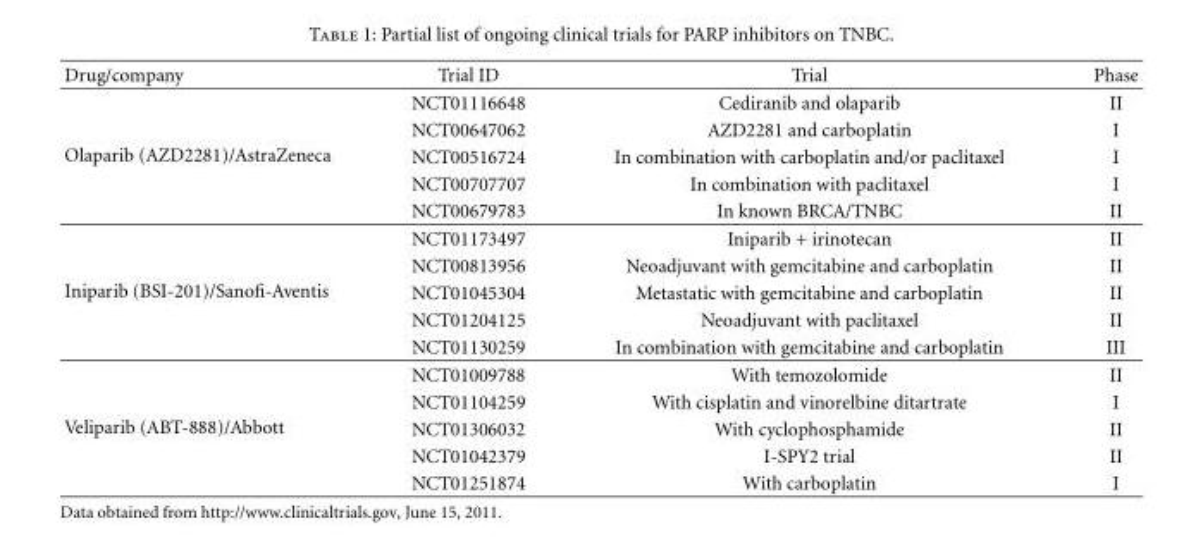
<table><thead><tr><td>Drug/company</td><td>Trial ID</td><td>Trial</td><td>Phase</td></tr></thead><tbody><tr><td rowspan="5">Olaparib (AZD2281)/AstraZeneca</td><td>NCT01116648</td><td>Cediranib and olaparib</td><td>II</td></tr><tr><td>NCT00647062</td><td>AZD2281 and carboplatin</td><td>I</td></tr><tr><td>NCT00516724</td><td>In combination with carboplatin and/or paclitaxel</td><td>I</td></tr><tr><td>NCT00707707</td><td>In combination with paclitaxel</td><td>I</td></tr><tr><td>NCT00679783</td><td>In known BRCA/TNBC</td><td>II</td></tr><tr><td rowspan="5">Iniparib (BSI-201)/Sanofi-Aventis</td><td>NCT01173497</td><td>Iniparib + irinotecan</td><td>II</td></tr><tr><td>NCT00813956</td><td>Neoadjuvant with gemcitabine and carboplatin</td><td>II</td></tr><tr><td>NCT01045304</td><td>Metastatic with gemcitabine and carboplatin</td><td>II</td></tr><tr><td>NCT01204125</td><td>Neoadjuvant with paclitaxel</td><td>II</td></tr><tr><td>NCT01130259</td><td>In combination with gemcitabine and carboplatin</td><td>III</td></tr><tr><td rowspan="5">Veliparib (ABT-888)/Abbott</td><td>NCT01009788</td><td>With temozolomide</td><td>II</td></tr><tr><td>NCT01104259</td><td>With cisplatin and vinorelbine ditartrate</td><td>I</td></tr><tr><td>NCT01306032</td><td>With cyclophosphamide</td><td>II</td></tr><tr><td>NCT01042379</td><td>I-SPY2 trial</td><td>II</td></tr><tr><td>NCT01251874</td><td>With carboplatin</td><td>I</td></tr></tbody></table>